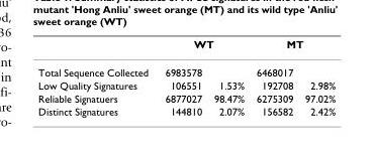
<table><thead><tr><td rowspan="2">Total Sequence Collected</td><td colspan="2">WT</td><td colspan="2">MT</td></tr><tr><td>6983578</td><td></td><td>6468017</td><td></td></tr></thead><tbody><tr><td>Low Quality Signatures</td><td>106551</td><td>1.53%</td><td>192708</td><td>2.98%</td></tr><tr><td>Reliable Signatuers</td><td>6877027</td><td>98.47%</td><td>6275309</td><td>97.02%</td></tr><tr><td>Distinct Signatures</td><td>144810</td><td>2.07%</td><td>156582</td><td>2.42%</td></tr></tbody></table>